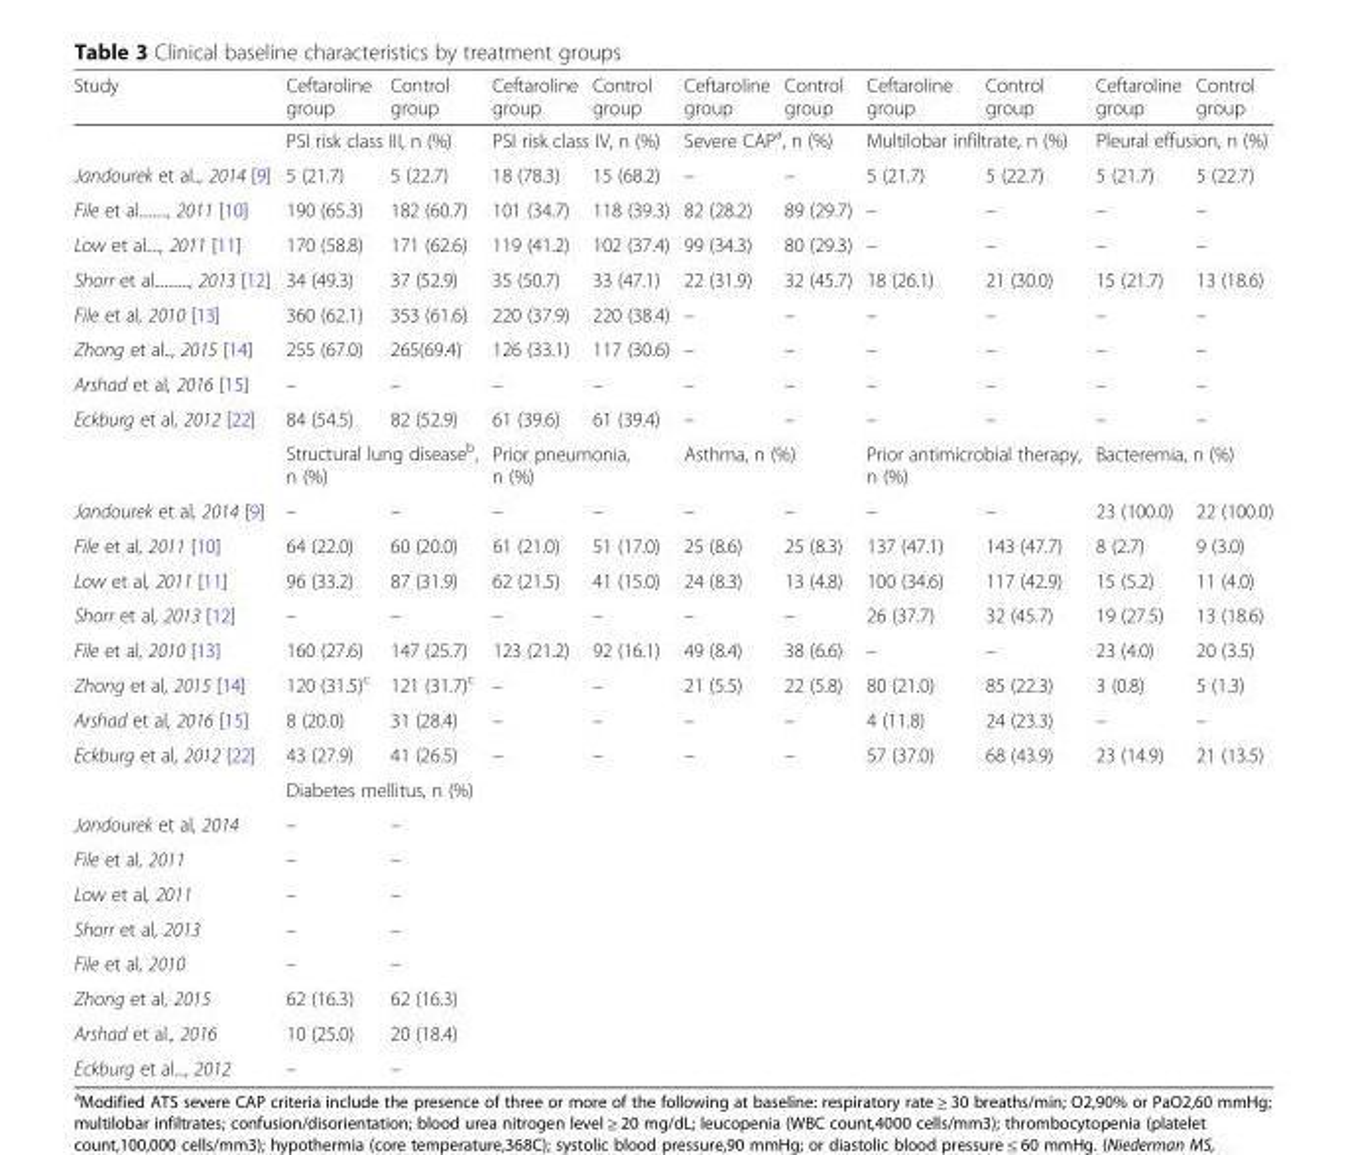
<table><thead><tr><td>Study</td><td>Ceftaroline group</td><td>Control group</td><td>Ceftaroline group</td><td>Control group</td><td>Ceftaroline group</td><td>Control group</td><td>Ceftaroline group</td><td>Control group</td><td>Ceftaroline group</td><td>Control group</td></tr></thead><tbody><tr><td></td><td colspan="2">PSI risk class III, n (%)</td><td colspan="2">PSI risk class IV, n (%)</td><td colspan="2">Severe CAP<sup>a</sup>, n (%)</td><td colspan="2">Multilobar infiltrate, n (%)</td><td colspan="2">Pleural effusion, n (%)</td></tr><tr><td>Jandourek et al.., 2014 [9]</td><td>5 (21.7)</td><td>5 (22.7)</td><td>18 (78.3)</td><td>15 (68.2)</td><td>–</td><td>–</td><td>5 (21.7)</td><td>5 (22.7)</td><td>5 (21.7)</td><td>5 (22.7)</td></tr><tr><td>File et al........, 2011 [10]</td><td>190 (65.3)</td><td>182 (60.7)</td><td>101 (34.7)</td><td>118 (39.3)</td><td>82 (28.2)</td><td>89 (29.7)</td><td>–</td><td>–</td><td>–</td><td>–</td></tr><tr><td>Low et al...., 2011 [11]</td><td>170 (58.8)</td><td>171 (62.6)</td><td>119 (41.2)</td><td>102 (37.4)</td><td>99 (34.3)</td><td>80 (29.3)</td><td>–</td><td>–</td><td>–</td><td>–</td></tr><tr><td>Shorr et al.........., 2013 [12]</td><td>34 (49.3)</td><td>37 (52.9)</td><td>35 (50.7)</td><td>33 (47.1)</td><td>22 (31.9)</td><td>32 (45.7)</td><td>18 (26.1)</td><td>21 (30.0)</td><td>15 (21.7)</td><td>13 (18.6)</td></tr><tr><td>File et al, 2010 [13]</td><td>360 (62.1)</td><td>353 (61.6)</td><td>220 (37.9)</td><td>220 (38.4)</td><td>–</td><td>–</td><td>–</td><td>–</td><td>–</td><td>–</td></tr><tr><td>Zhong et al.., 2015 [14]</td><td>255 (67.0)</td><td>265(69.4)</td><td>126 (33.1)</td><td>117 (30.6)</td><td>–</td><td>–</td><td>–</td><td>–</td><td>–</td><td>–</td></tr><tr><td>Arshad et al, 2016 [15]</td><td>–</td><td>–</td><td>–</td><td>–</td><td>–</td><td>–</td><td>–</td><td>–</td><td>–</td><td>–</td></tr><tr><td rowspan="2">Eckburg et al, 2012 [22]</td><td>84 (54.5)</td><td>82 (52.9)</td><td>61 (39.6)</td><td>61 (39.4)</td><td>–</td><td>–</td><td>–</td><td>–</td><td>–</td><td>–</td></tr><tr><td colspan="2">Structural lung disease<sup>b</sup>, n (%)</td><td colspan="2">Prior pneumonia, n (%)</td><td colspan="2">Asthma, n (%)</td><td colspan="2">Prior antimicrobial therapy, n (%)</td><td colspan="2">Bacteremia, n (%)</td></tr><tr><td>Jandourek et al, 2014 [9]</td><td>–</td><td>–</td><td>–</td><td>–</td><td>–</td><td>–</td><td>–</td><td>–</td><td>23 (100.0)</td><td>22 (100.0)</td></tr><tr><td>File et al, 2011 [10]</td><td>64 (22.0)</td><td>60 (20.0)</td><td>61 (21.0)</td><td>51 (17.0)</td><td>25 (8.6)</td><td>25 (8.3)</td><td>137 (47.1)</td><td>143 (47.7)</td><td>8 (2.7)</td><td>9 (3.0)</td></tr><tr><td>Low et al, 2011 [11]</td><td>96 (33.2)</td><td>87 (31.9)</td><td>62 (21.5)</td><td>41 (15.0)</td><td>24 (8.3)</td><td>13 (4.8)</td><td>100 (34.6)</td><td>117 (42.9)</td><td>15 (5.2)</td><td>11 (4.0)</td></tr><tr><td>Shorr et al, 2013 [12]</td><td>–</td><td>–</td><td>–</td><td>–</td><td>–</td><td>–</td><td>26 (37.7)</td><td>32 (45.7)</td><td>19 (27.5)</td><td>13 (18.6)</td></tr><tr><td>File et al, 2010 [13]</td><td>160 (27.6)</td><td>147 (25.7)</td><td>123 (21.2)</td><td>92 (16.1)</td><td>49 (8.4)</td><td>38 (6.6)</td><td>–</td><td>–</td><td>23 (4.0)</td><td>20 (3.5)</td></tr><tr><td>Zhong et al, 2015 [14]</td><td>120 (31.5)<sup>c</sup></td><td>121 (31.7)<sup>c</sup></td><td>–</td><td>–</td><td>21 (5.5)</td><td>22 (5.8)</td><td>80 (21.0)</td><td>85 (22.3)</td><td>3 (0.8)</td><td>5 (1.3)</td></tr><tr><td>Arshad et al, 2016 [15]</td><td>8 (20.0)</td><td>31 (28.4)</td><td>–</td><td>–</td><td>–</td><td>–</td><td>4 (11.8)</td><td>24 (23.3)</td><td>–</td><td>–</td></tr><tr><td rowspan="2">Eckburg et al, 2012 [22]</td><td>43 (27.9)</td><td>41 (26.5)</td><td>–</td><td>–</td><td>–</td><td>–</td><td>57 (37.0)</td><td>68 (43.9)</td><td>23 (14.9)</td><td>21 (13.5)</td></tr><tr><td colspan="10">Diabetes mellitus, n (%)</td></tr><tr><td>Jandourek et al, 2014</td><td>–</td><td>–</td><td></td><td></td><td></td><td></td><td></td><td></td><td></td><td></td></tr><tr><td>File et al, 2011</td><td>–</td><td>–</td><td></td><td></td><td></td><td></td><td></td><td></td><td></td><td></td></tr><tr><td>Low et al, 2011</td><td>–</td><td>–</td><td></td><td></td><td></td><td></td><td></td><td></td><td></td><td></td></tr><tr><td>Shorr et al, 2013</td><td>–</td><td>–</td><td></td><td></td><td></td><td></td><td></td><td></td><td></td><td></td></tr><tr><td>File et al, 2010</td><td>–</td><td>–</td><td></td><td></td><td></td><td></td><td></td><td></td><td></td><td></td></tr><tr><td>Zhong et al, 2015</td><td>62 (16.3)</td><td>62 (16.3)</td><td></td><td></td><td></td><td></td><td></td><td></td><td></td><td></td></tr><tr><td>Arshad et al., 2016</td><td>10 (25.0)</td><td>20 (18.4)</td><td></td><td></td><td></td><td></td><td></td><td></td><td></td><td></td></tr><tr><td>Eckburg et al..., 2012</td><td>–</td><td>–</td><td></td><td></td><td></td><td></td><td></td><td></td><td></td><td></td></tr></tbody></table>